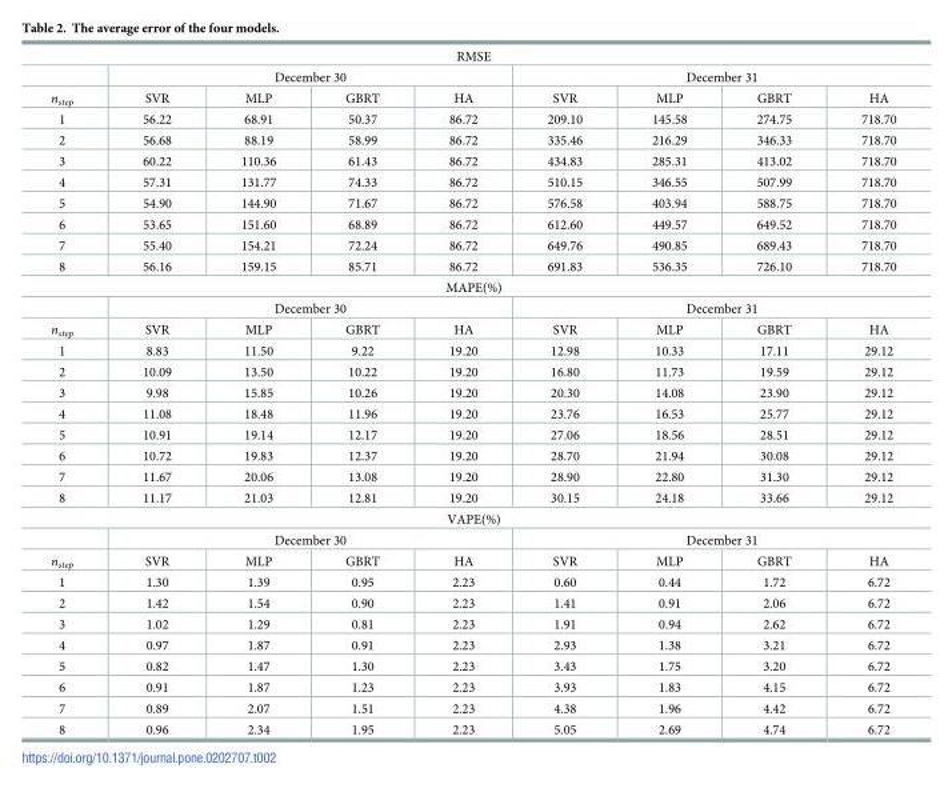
<table><tbody><tr><td colspan="9">RMSE</td></tr><tr><td></td><td colspan="4">December 30</td><td colspan="4">December 31</td></tr><tr><td>n<sub>step</sub></td><td>SVR</td><td>MLP</td><td>GBRT</td><td>HA</td><td>SVR</td><td>MLP</td><td>GBRT</td><td>HA</td></tr><tr><td>1</td><td>56.22</td><td>68.91</td><td>50.37</td><td>86.72</td><td>209.10</td><td>145.58</td><td>274.75</td><td>718.70</td></tr><tr><td>2</td><td>56.68</td><td>88.19</td><td>58.99</td><td>86.72</td><td>335.46</td><td>216.29</td><td>346.33</td><td>718.70</td></tr><tr><td>3</td><td>60.22</td><td>110.36</td><td>61.43</td><td>86.72</td><td>434.83</td><td>285.31</td><td>413.02</td><td>718.70</td></tr><tr><td>4</td><td>57.31</td><td>131.77</td><td>74.33</td><td>86.72</td><td>510.15</td><td>346.55</td><td>507.99</td><td>718.70</td></tr><tr><td>5</td><td>54.90</td><td>144.90</td><td>71.67</td><td>86.72</td><td>576.58</td><td>403.94</td><td>588.75</td><td>718.70</td></tr><tr><td>6</td><td>53.65</td><td>151.60</td><td>68.89</td><td>86.72</td><td>612.60</td><td>449.57</td><td>649.52</td><td>718.70</td></tr><tr><td>7</td><td>55.40</td><td>154.21</td><td>72.24</td><td>86.72</td><td>649.76</td><td>490.85</td><td>689.43</td><td>718.70</td></tr><tr><td>8</td><td>56.16</td><td>159.15</td><td>85.71</td><td>86.72</td><td>691.83</td><td>536.35</td><td>726.10</td><td>718.70</td></tr><tr><td colspan="9">MAPE(%)</td></tr><tr><td></td><td colspan="4">December 30</td><td colspan="4">December 31</td></tr><tr><td>n<sub>step</sub></td><td>SVR</td><td>MLP</td><td>GBRT</td><td>HA</td><td>SVR</td><td>MLP</td><td>GBRT</td><td>HA</td></tr><tr><td>1</td><td>8.83</td><td>11.50</td><td>9.22</td><td>19.20</td><td>12.98</td><td>10.33</td><td>17.11</td><td>29.12</td></tr><tr><td>2</td><td>10.09</td><td>13.50</td><td>10.22</td><td>19.20</td><td>16.80</td><td>11.73</td><td>19.59</td><td>29.12</td></tr><tr><td>3</td><td>9.98</td><td>15.85</td><td>10.26</td><td>19.20</td><td>20.30</td><td>14.08</td><td>23.90</td><td>29.12</td></tr><tr><td>4</td><td>11.08</td><td>18.48</td><td>11.96</td><td>19.20</td><td>23.76</td><td>16.53</td><td>25.77</td><td>29.12</td></tr><tr><td>5</td><td>10.91</td><td>19.14</td><td>12.17</td><td>19.20</td><td>27.06</td><td>18.56</td><td>28.51</td><td>29.12</td></tr><tr><td>6</td><td>10.72</td><td>19.83</td><td>12.37</td><td>19.20</td><td>28.70</td><td>21.94</td><td>30.08</td><td>29.12</td></tr><tr><td>7</td><td>11.67</td><td>20.06</td><td>13.08</td><td>19.20</td><td>28.90</td><td>22.80</td><td>31.30</td><td>29.12</td></tr><tr><td>8</td><td>11.17</td><td>21.03</td><td>12.81</td><td>19.20</td><td>30.15</td><td>24.18</td><td>33.66</td><td>29.12</td></tr><tr><td colspan="9">VAPE(%)</td></tr><tr><td></td><td colspan="4">December 30</td><td colspan="4">December 31</td></tr><tr><td>n<sub>step</sub></td><td>SVR</td><td>MLP</td><td>GBRT</td><td>HA</td><td>SVR</td><td>MLP</td><td>GBRT</td><td>HA</td></tr><tr><td>1</td><td>1.30</td><td>1.39</td><td>0.95</td><td>2.23</td><td>0.60</td><td>0.44</td><td>1.72</td><td>6.72</td></tr><tr><td>2</td><td>1.42</td><td>1.54</td><td>0.90</td><td>2.23</td><td>1.41</td><td>0.91</td><td>2.06</td><td>6.72</td></tr><tr><td>3</td><td>1.02</td><td>1.29</td><td>0.81</td><td>2.23</td><td>1.91</td><td>0.94</td><td>2.62</td><td>6.72</td></tr><tr><td>4</td><td>0.97</td><td>1.87</td><td>0.91</td><td>2.23</td><td>2.93</td><td>1.38</td><td>3.21</td><td>6.72</td></tr><tr><td>5</td><td>0.82</td><td>1.47</td><td>1.30</td><td>2.23</td><td>3.43</td><td>1.75</td><td>3.20</td><td>6.72</td></tr><tr><td>6</td><td>0.91</td><td>1.87</td><td>1.23</td><td>2.23</td><td>3.93</td><td>1.83</td><td>4.15</td><td>6.72</td></tr><tr><td>7</td><td>0.89</td><td>2.07</td><td>1.51</td><td>2.23</td><td>4.38</td><td>1.96</td><td>4.42</td><td>6.72</td></tr><tr><td>8</td><td>0.96</td><td>2.34</td><td>1.95</td><td>2.23</td><td>5.05</td><td>2.69</td><td>4.74</td><td>6.72</td></tr></tbody></table>